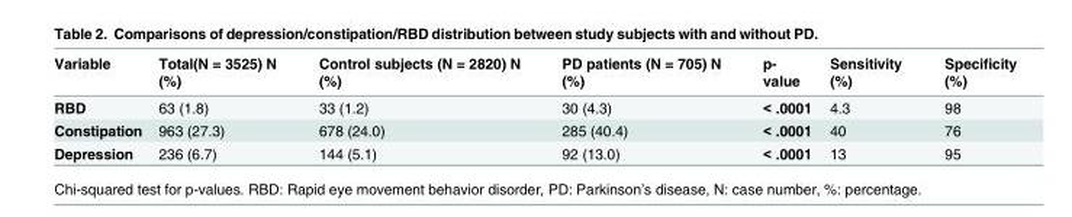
<table><thead><tr><td>Variable</td><td>Total(N = 3525) N (%)</td><td>Control subjects (N = 2820) N (%)</td><td>PD patients (N = 705) N (%)</td><td>p- value</td><td>Sensitivity (%)</td><td>Specificity (%)</td></tr></thead><tbody><tr><td>RBD</td><td>63 (1.8)</td><td>33 (1.2)</td><td>30 (4.3)</td><td>&lt; .0001</td><td>4.3</td><td>98</td></tr><tr><td>Constipation</td><td>963 (27.3)</td><td>678 (24.0)</td><td>285 (40.4)</td><td>&lt; .0001</td><td>40</td><td>76</td></tr><tr><td>Depression</td><td>236 (6.7)</td><td>144 (5.1)</td><td>92 (13.0)</td><td>&lt; .0001</td><td>13</td><td>95</td></tr></tbody></table>